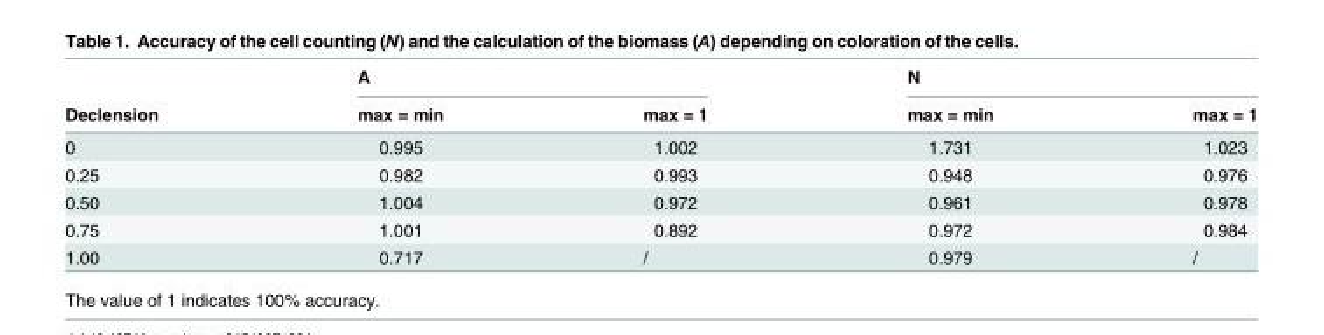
<table><thead><tr><td rowspan="2">Declension</td><td colspan="2">A</td><td colspan="2">N</td></tr><tr><td>max = min</td><td>max = 1</td><td>max = min</td><td>max = 1</td></tr></thead><tbody><tr><td>0</td><td>0.995</td><td>1.002</td><td>1.731</td><td>1.023</td></tr><tr><td>0.25</td><td>0.982</td><td>0.993</td><td>0.948</td><td>0.976</td></tr><tr><td>0.50</td><td>1.004</td><td>0.972</td><td>0.961</td><td>0.978</td></tr><tr><td>0.75</td><td>1.001</td><td>0.892</td><td>0.972</td><td>0.984</td></tr><tr><td>1.00</td><td>0.717</td><td>/</td><td>0.979</td><td>/</td></tr></tbody></table>